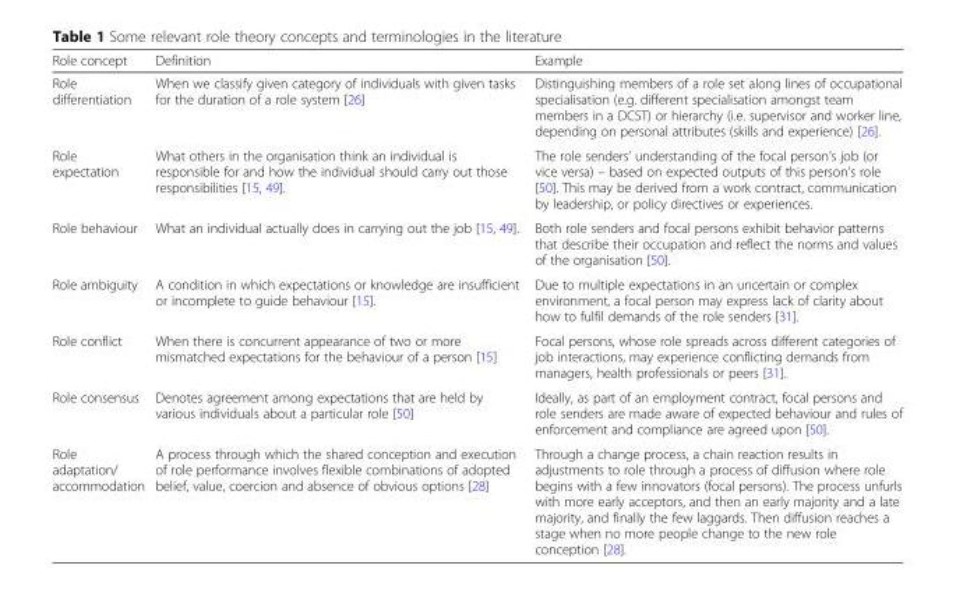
<table><thead><tr><td>Role concept</td><td>Definition</td><td>Example</td></tr></thead><tbody><tr><td>Role differentiation</td><td>When we classify given category of individuals with given tasks for the duration of a role system [26]</td><td>Distinguishing members of a role set along lines of occupational specialisation (e.g. different specialisation amongst team members in a DCST) or hierarchy (i.e. supervisor and worker line, depending on personal attributes (skills and experience) [26].</td></tr><tr><td>Role expectation</td><td>What others in the organisation think an individual is responsible for and how the individual should carry out those responsibilities [15, 49].</td><td>The role senders’ understanding of the focal person’s job (or vice versa) – based on expected outputs of this person’s role [50]. This may be derived from a work contract, communication by leadership, or policy directives or experiences.</td></tr><tr><td>Role behaviour</td><td>What an individual actually does in carrying out the job [15, 49].</td><td>Both role senders and focal persons exhibit behavior patterns that describe their occupation and reflect the norms and values of the organisation [50].</td></tr><tr><td>Role ambiguity</td><td>A condition in which expectations or knowledge are insufficient or incomplete to guide behaviour [15].</td><td>Due to multiple expectations in an uncertain or complex environment, a focal person may express lack of clarity about how to fulfil demands of the role senders [31].</td></tr><tr><td>Role conflict</td><td>When there is concurrent appearance of two or more mismatched expectations for the behaviour of a person [15]</td><td>Focal persons, whose role spreads across different categories of job interactions, may experience conflicting demands from managers, health professionals or peers [31].</td></tr><tr><td>Role consensus</td><td>Denotes agreement among expectations that are held by various individuals about a particular role [50]</td><td>Ideally, as part of an employment contract, focal persons and role senders are made aware of expected behaviour and rules of enforcement and compliance are agreed upon [50].</td></tr><tr><td>Role adaptation/ accommodation</td><td>A process through which the shared conception and execution of role performance involves flexible combinations of adopted belief, value, coercion and absence of obvious options [28]</td><td>Through a change process, a chain reaction results in adjustments to role through a process of diffusion where role begins with a few innovators (focal persons). The process unfurls with more early acceptors, and then an early majority and a late majority, and finally the few laggards. Then diffusion reaches a stage when no more people change to the new role conception [28].</td></tr></tbody></table>